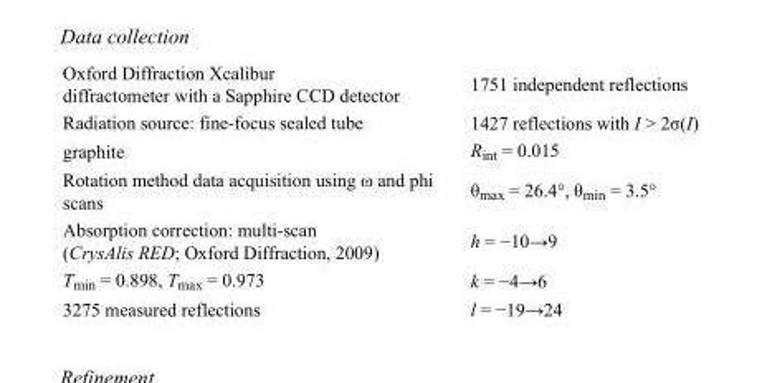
<table><tbody><tr><td>Oxford Diffraction Xcalibur diffractometer with a Sapphire CCD detector</td><td>1751 independent reflections</td></tr><tr><td>Radiation source: fine-focus sealed tube</td><td>1427 reflections with I &gt; 2σ(I)</td></tr><tr><td>graphite</td><td>R<sub>int</sub> = 0.015</td></tr><tr><td>Rotation method data acquisition using ω and phi scans</td><td>θ<sub>max</sub> = 26.4°, θ<sub>min</sub> = 3.5°</td></tr><tr><td>Absorption correction: multi-scan (CrysAlis RED; Oxford Diffraction, 2009)</td><td>h = −10→9</td></tr><tr><td>T<sub>min</sub> = 0.898, T<sub>max</sub> = 0.973</td><td>k = −4→6</td></tr><tr><td>3275 measured reflections</td><td>l = −19→24</td></tr></tbody></table>